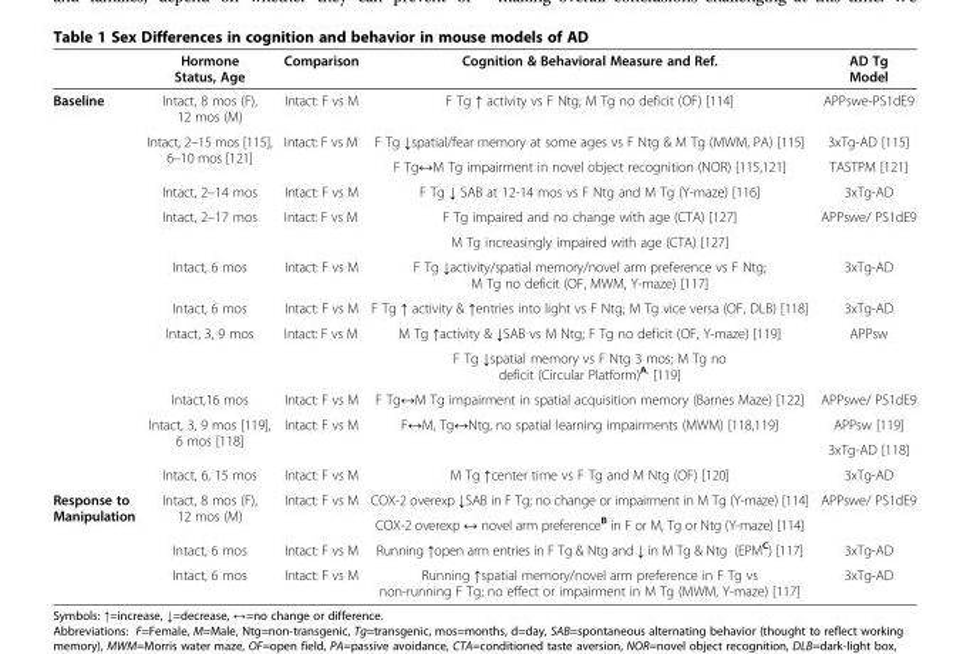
<table><thead><tr><td></td><td>Hormone Status, Age</td><td>Comparison</td><td>Cognition &amp; Behavioral Measure and Ref.</td><td>AD Tg Model</td></tr></thead><tbody><tr><td rowspan="14">Baseline</td><td>Intact, 8 mos (F), 12 mos (M)</td><td>Intact: F vs M</td><td>F Tg ↑ activity vs F Ntg; M Tg no deficit (OF) [114]</td><td>APPswe-PS1dE9</td></tr><tr><td rowspan="2">Intact, 2–15 mos [115], 6–10 mos [121]</td><td rowspan="2">Intact: F vs M</td><td>F Tg ↓spatial/fear memory at some ages vs F Ntg &amp; M Tg (MWM, PA) [115]</td><td>3xTg-AD [115]</td></tr><tr><td>F Tg↔M Tg impairment in novel object recognition (NOR) [115,121]</td><td>TASTPM [121]</td></tr><tr><td>Intact, 2–14 mos</td><td>Intact: F vs M</td><td>F Tg ↓ SAB at 12-14 mos vs F Ntg and M Tg (Y-maze) [116]</td><td>3xTg-AD</td></tr><tr><td rowspan="2">Intact, 2–17 mos</td><td rowspan="2">Intact: F vs M</td><td>F Tg impaired and no change with age (CTA) [127]</td><td rowspan="2">APPswe/ PS1dE9</td></tr><tr><td>M Tg increasingly impaired with age (CTA) [127]</td></tr><tr><td>Intact, 6 mos</td><td>Intact: F vs M</td><td>F Tg ↓activity/spatial memory/novel arm preference vs F Ntg; M Tg no deficit (OF, MWM, Y-maze) [117]</td><td>3xTg-AD</td></tr><tr><td>Intact, 6 mos</td><td>Intact: F vs M</td><td>F Tg ↑ activity &amp; ↑entries into light vs F Ntg; M Tg vice versa (OF, DLB) [118]</td><td>3xTg-AD</td></tr><tr><td rowspan="2">Intact, 3, 9 mos</td><td rowspan="2">Intact: F vs M</td><td>M Tg ↑activity &amp; ↓SAB vs M Ntg; F Tg no deficit (OF, Y-maze) [119]</td><td rowspan="2">APPsw</td></tr><tr><td>F Tg ↓spatial memory vs F Ntg 3 mos; M Tg no deficit (Circular Platform)<sup>A,</sup> [119]</td></tr><tr><td>Intact,16 mos</td><td>Intact: F vs M</td><td>F Tg↔M Tg impairment in spatial acquisition memory (Barnes Maze) [122]</td><td>APPswe/ PS1dE9</td></tr><tr><td rowspan="2">Intact, 3, 9 mos [119], 6 mos [118]</td><td rowspan="2">Intact: F vs M</td><td rowspan="2">F↔M, Tg↔Ntg, no spatial learning impairments (MWM) [118,119]</td><td>APPsw [119]</td></tr><tr><td>3xTg-AD [118]</td></tr><tr><td>Intact, 6, 15 mos</td><td>Intact: F vs M</td><td>M Tg ↑center time vs F Tg and M Ntg (OF) [120]</td><td>3xTg-AD</td></tr><tr><td rowspan="4">Response to Manipulation</td><td rowspan="2">Intact, 8 mos (F), 12 mos (M)</td><td rowspan="2">Intact: F vs M</td><td>COX-2 overexp ↓SAB in F Tg; no change or impairment in M Tg (Y-maze) [114]</td><td rowspan="2">APPswe/ PS1dE9</td></tr><tr><td>COX-2 overexp ↔ novel arm preference<sup>B</sup> in F or M, Tg or Ntg (Y-maze) [114]</td></tr><tr><td>Intact, 6 mos</td><td>Intact: F vs M</td><td>Running ↑open arm entries in F Tg &amp; Ntg and ↓ in M Tg &amp; Ntg (EPM<sup>C</sup>) [117]</td><td>3xTg-AD</td></tr><tr><td>Intact, 6 mos</td><td>Intact: F vs M</td><td>Running ↑spatial memory/novel arm preference in F Tg vs non-running F Tg; no effect or impairment in M Tg (MWM, Y-maze) [117]</td><td>3xTg-AD</td></tr></tbody></table>